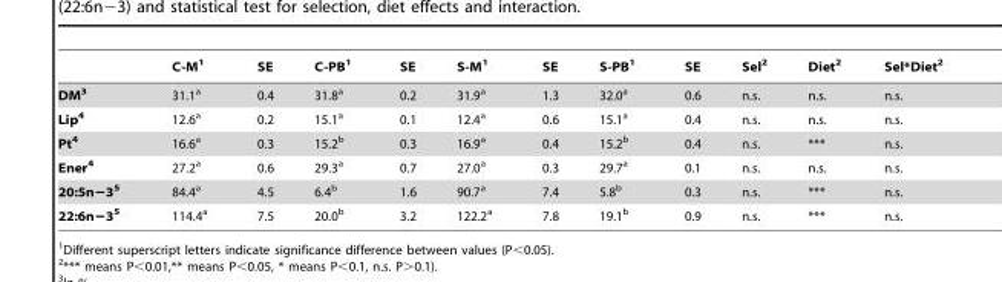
<table><thead><tr><td></td><td>C-M<sup>1</sup></td><td>SE</td><td>C-PB<sup>1</sup></td><td>SE</td><td>S-M<sup>1</sup></td><td>SE</td><td>S-PB<sup>1</sup></td><td>SE</td><td>Sel<sup>2</sup></td><td>Diet<sup>2</sup></td><td>Sel*Diet<sup>2</sup></td></tr></thead><tbody><tr><td>DM3</td><td>31.1<sup>a</sup></td><td>0.4</td><td>31.8<sup>a</sup></td><td>0.2</td><td>31.9<sup>a</sup></td><td>1.3</td><td>32.0<sup>a</sup></td><td>0.6</td><td>n.s.</td><td>n.s.</td><td>n.s.</td></tr><tr><td>Lip4</td><td>12.6<sup>a</sup></td><td>0.2</td><td>15.1<sup>a</sup></td><td>0.1</td><td>12.4<sup>a</sup></td><td>0.6</td><td>15.1<sup>a</sup></td><td>0.4</td><td>n.s.</td><td>n.s.</td><td>n.s.</td></tr><tr><td>Pt4</td><td>16.6<sup>a</sup></td><td>0.3</td><td>15.2<sup>b</sup></td><td>0.3</td><td>16.9<sup>a</sup></td><td>0.4</td><td>15.2<sup>b</sup></td><td>0.4</td><td>n.s.</td><td>***</td><td>n.s.</td></tr><tr><td>Ener4</td><td>27.2<sup>a</sup></td><td>0.6</td><td>29.3<sup>a</sup></td><td>0.7</td><td>27.0<sup>a</sup></td><td>0.3</td><td>29.7<sup>a</sup></td><td>0.1</td><td>n.s.</td><td>n.s.</td><td>n.s.</td></tr><tr><td>20:5n−35</td><td>84.4<sup>a</sup></td><td>4.5</td><td>6.4<sup>b</sup></td><td>1.6</td><td>90.7<sup>a</sup></td><td>7.4</td><td>5.8<sup>b</sup></td><td>0.3</td><td>n.s.</td><td>***</td><td>n.s.</td></tr><tr><td>22:6n−35</td><td>114.4<sup>a</sup></td><td>7.5</td><td>20.0<sup>b</sup></td><td>3.2</td><td>122.2<sup>a</sup></td><td>7.8</td><td>19.1<sup>b</sup></td><td>0.9</td><td>n.s.</td><td>***</td><td>n.s.</td></tr></tbody></table>